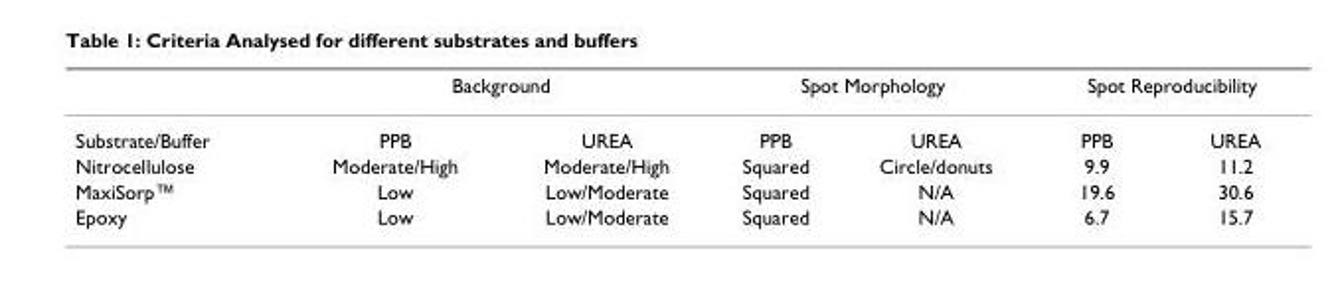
<table><thead><tr><td rowspan="2">Substrate/Buffer</td><td colspan="2">Background</td><td colspan="2">Spot Morphology</td><td colspan="2">Spot Reproducibility</td></tr><tr><td>PPB</td><td>UREA</td><td>PPB</td><td>UREA</td><td>PPB</td><td>UREA</td></tr></thead><tbody><tr><td>Nitrocellulose</td><td>Moderate/High</td><td>Moderate/High</td><td>Squared</td><td>Circle/donuts</td><td>9.9</td><td>11.2</td></tr><tr><td>MaxiSorp™</td><td>Low</td><td>Low/Moderate</td><td>Squared</td><td>N/A</td><td>19.6</td><td>30.6</td></tr><tr><td>Epoxy</td><td>Low</td><td>Low/Moderate</td><td>Squared</td><td>N/A</td><td>6.7</td><td>15.7</td></tr></tbody></table>